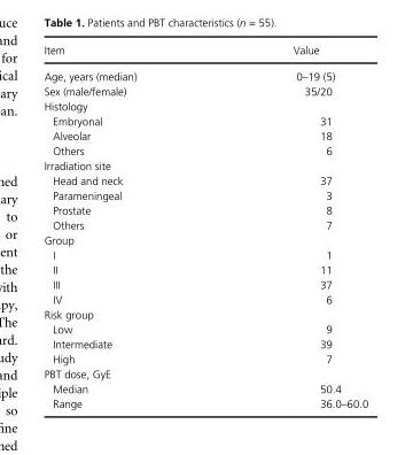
<table><thead><tr><td>Item</td><td>Value</td></tr></thead><tbody><tr><td>Age, years (median)</td><td>0–19 (5)</td></tr><tr><td>Sex (male/female)</td><td>35/20</td></tr><tr><td colspan="2">Histology</td></tr><tr><td>Embryonal</td><td>31</td></tr><tr><td>Alveolar</td><td>18</td></tr><tr><td>Others</td><td>6</td></tr><tr><td colspan="2">Irradiation site</td></tr><tr><td>Head and neck</td><td>37</td></tr><tr><td>Parameningeal</td><td>3</td></tr><tr><td>Prostate</td><td>8</td></tr><tr><td>Others</td><td>7</td></tr><tr><td colspan="2">Group</td></tr><tr><td>I</td><td>1</td></tr><tr><td>II</td><td>11</td></tr><tr><td>III</td><td>37</td></tr><tr><td>IV</td><td>6</td></tr><tr><td colspan="2">Risk group</td></tr><tr><td>Low</td><td>9</td></tr><tr><td>Intermediate</td><td>39</td></tr><tr><td>High</td><td>7</td></tr><tr><td colspan="2">PBT dose, GyE</td></tr><tr><td>Median</td><td>50.4</td></tr><tr><td>Range</td><td>36.0–60.0</td></tr></tbody></table>